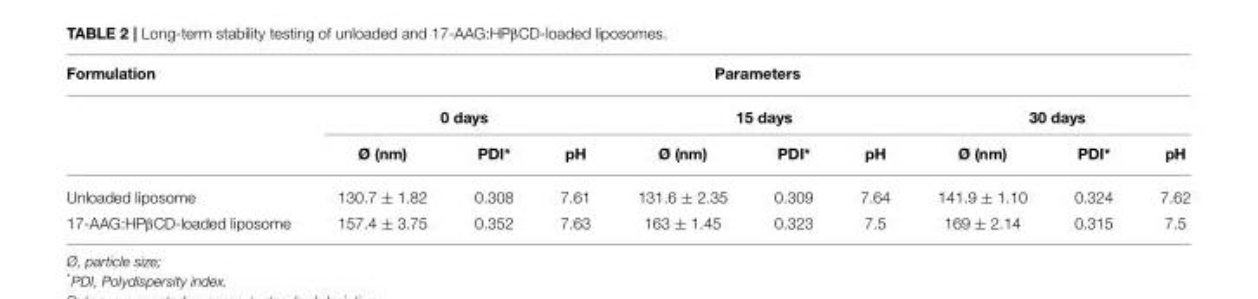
<table><thead><tr><td rowspan="3">Formulation</td><td colspan="9">Parameters</td></tr><tr><td colspan="3">0 days</td><td colspan="3">15 days</td><td colspan="3">30 days</td></tr><tr><td>Ø (nm)</td><td>PDI*</td><td>pH</td><td>Ø (nm)</td><td>PDI*</td><td>pH</td><td>Ø (nm)</td><td>PDI*</td><td>pH</td></tr></thead><tbody><tr><td>Unloaded liposome</td><td>130.7 ± 1.82</td><td>0.308</td><td>7.61</td><td>131.6 ± 2.35</td><td>0.309</td><td>7.64</td><td>141.9 ± 1.10</td><td>0.324</td><td>7.62</td></tr><tr><td>17-AAG:HPβCD-loaded liposome</td><td>157.4 ± 3.75</td><td>0.352</td><td>7.63</td><td>163 ± 1.45</td><td>0.323</td><td>7.5</td><td>169 ± 2.14</td><td>0.315</td><td>7.5</td></tr></tbody></table>